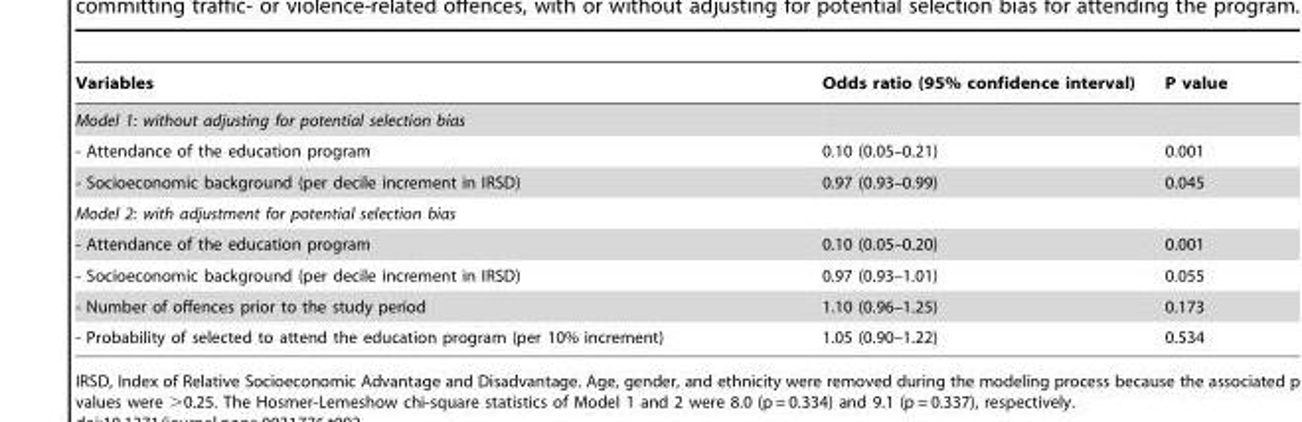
<table><thead><tr><td>Variables</td><td>Odds ratio (95% confidence interval)</td><td>P value</td></tr></thead><tbody><tr><td colspan="3">Model 1: without adjusting for potential selection bias</td></tr><tr><td>- Attendance of the education program</td><td>0.10 (0.05–0.21)</td><td>0.001</td></tr><tr><td>- Socioeconomic background (per decile increment in IRSD)</td><td>0.97 (0.93–0.99)</td><td>0.045</td></tr><tr><td colspan="3">Model 2: with adjustment for potential selection bias</td></tr><tr><td>- Attendance of the education program</td><td>0.10 (0.05–0.20)</td><td>0.001</td></tr><tr><td>- Socioeconomic background (per decile increment in IRSD)</td><td>0.97 (0.93–1.01)</td><td>0.055</td></tr><tr><td>- Number of offences prior to the study period</td><td>1.10 (0.96–1.25)</td><td>0.173</td></tr><tr><td>- Probability of selected to attend the education program (per 10% increment)</td><td>1.05 (0.90–1.22)</td><td>0.534</td></tr></tbody></table>